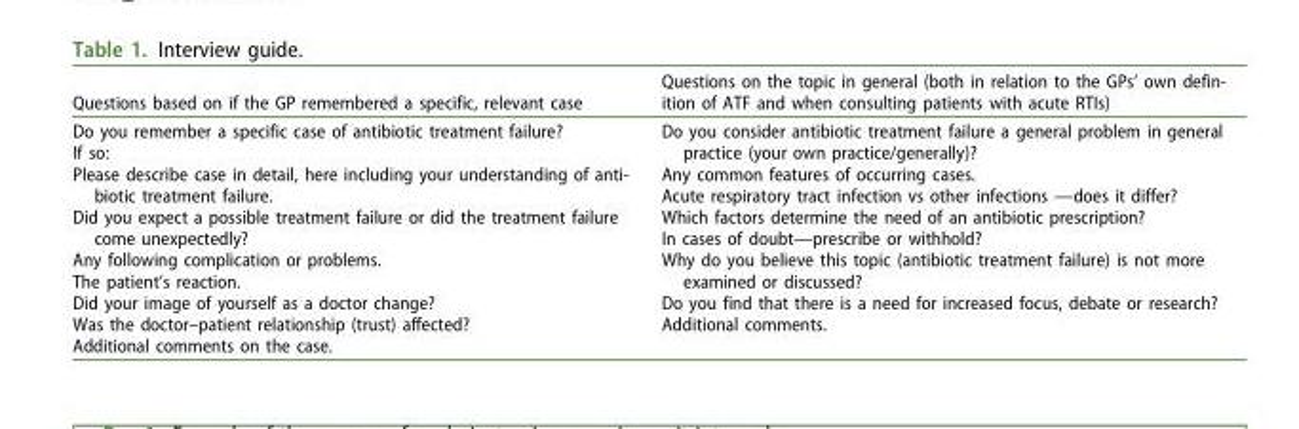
<table><thead><tr><td>Questions based on if the GP remembered a specific, relevant case</td><td>Questions on the topic in general (both in relation to the GPs’ own defin- ition of ATF and when consulting patients with acute RTIs)</td></tr></thead><tbody><tr><td>Do you remember a specific case of antibiotic treatment failure? If so: Please describe case in detail, here including your understanding of anti- biotic treatment failure. Did you expect a possible treatment failure or did the treatment failure come unexpectedly? Any following complication or problems. The patient’s reaction. Did your image of yourself as a doctor change? Was the doctor–patient relationship (trust) affected? Additional comments on the case.</td><td>Do you consider antibiotic treatment failure a general problem in general practice (your own practice/generally)? Any common features of occurring cases. Acute respiratory tract infection vs other infections —does it differ? Which factors determine the need of an antibiotic prescription? In cases of doubt—prescribe or withhold? Why do you believe this topic (antibiotic treatment failure) is not more examined or discussed? Do you find that there is a need for increased focus, debate or research? Additional comments.</td></tr></tbody></table>